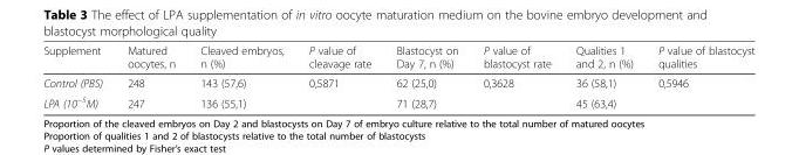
<table><thead><tr><td>Supplement</td><td>Matured oocytes, n</td><td>Cleaved embryos, n (%)</td><td>P value of cleavage rate</td><td>Blastocyst on Day 7, n (%)</td><td>P value of blastocyst rate</td><td>Qualities 1 and 2, n (%)</td><td>P value of blastocyst qualities</td></tr></thead><tbody><tr><td>Control (PBS)</td><td>248</td><td>143 (57,6)</td><td rowspan="2">0,5871</td><td>62 (25,0)</td><td rowspan="2">0,3628</td><td>36 (58,1)</td><td rowspan="2">0,5946</td></tr><tr><td>LPA (10<sup>−5</sup>M)</td><td>247</td><td>136 (55,1)</td><td>71 (28,7)</td><td>45 (63,4)</td></tr></tbody></table>